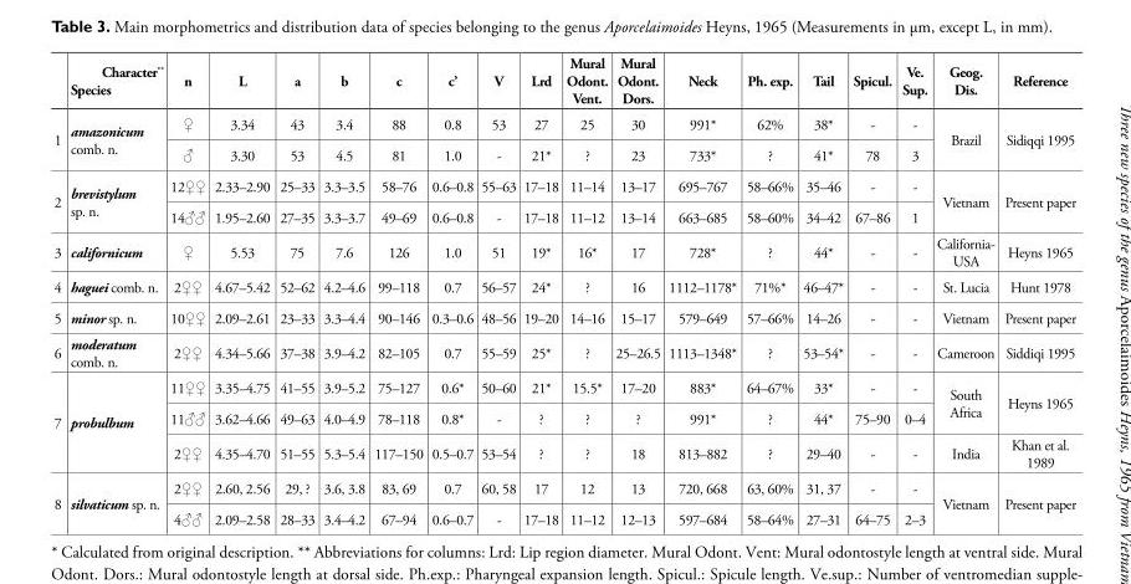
<table><thead><tr><td></td><td>Character** Species</td><td>n</td><td>L</td><td>a</td><td>b</td><td>c</td><td>c’</td><td>V</td><td>Lrd</td><td>Mural Odont. Vent.</td><td>Mural Odont. Dors.</td><td>Neck</td><td>Ph. exp.</td><td>Tail</td><td>Spicul.</td><td>Ve. Sup.</td><td>Geog. Dis.</td><td>Reference</td></tr></thead><tbody><tr><td rowspan="2">1</td><td rowspan="2">amazonicum comb. n.</td><td>♀</td><td>3.34</td><td>43</td><td>3.4</td><td>88</td><td>0.8</td><td>53</td><td>27</td><td>25</td><td>30</td><td>991*</td><td>62%</td><td>38*</td><td>-</td><td>-</td><td rowspan="2">Brazil</td><td rowspan="2">Sidiqqi 1995</td></tr><tr><td>♂</td><td>3.30</td><td>53</td><td>4.5</td><td>81</td><td>1.0</td><td>-</td><td>21*</td><td>?</td><td>23</td><td>733*</td><td>?</td><td>41*</td><td>78</td><td>3</td></tr><tr><td rowspan="2">2</td><td rowspan="2">brevistylum sp. n.</td><td>12♀♀</td><td>2.33–2.90</td><td>25–33</td><td>3.3–3.5</td><td>58–76</td><td>0.6–0.8</td><td>55–63</td><td>17–18</td><td>11–14</td><td>13–17</td><td>695–767</td><td>58–66%</td><td>35–46</td><td>-</td><td>-</td><td rowspan="2">Vietnam</td><td rowspan="2">Present paper</td></tr><tr><td>14♂♂</td><td>1.95–2.60</td><td>27–35</td><td>3.3–3.7</td><td>49–69</td><td>0.6–0.8</td><td>-</td><td>17–18</td><td>11–12</td><td>13–14</td><td>663–685</td><td>58–60%</td><td>34–42</td><td>67–86</td><td>1</td></tr><tr><td>3</td><td>californicum</td><td>♀</td><td>5.53</td><td>75</td><td>7.6</td><td>126</td><td>1.0</td><td>51</td><td>19*</td><td>16*</td><td>17</td><td>728*</td><td>?</td><td>44*</td><td>-</td><td>-</td><td>California- USA</td><td>Heyns 1965</td></tr><tr><td>4</td><td>haguei comb. n.</td><td>2♀♀</td><td>4.67–5.42</td><td>52–62</td><td>4.2–4.6</td><td>99–118</td><td>0.7</td><td>56–57</td><td>24*</td><td>?</td><td>16</td><td>1112–1178*</td><td>71%*</td><td>46–47*</td><td>-</td><td>-</td><td>St. Lucia</td><td>Hunt 1978</td></tr><tr><td>5</td><td>minor sp. n.</td><td>10♀♀</td><td>2.09–2.61</td><td>23–33</td><td>3.3–4.4</td><td>90–146</td><td>0.3–0.6</td><td>48–56</td><td>19–20</td><td>14–16</td><td>15–17</td><td>579–649</td><td>57–66%</td><td>14–26</td><td>-</td><td>-</td><td>Vietnam</td><td>Present paper</td></tr><tr><td>6</td><td>moderatum comb. n.</td><td>2♀♀</td><td>4.34–5.66</td><td>37–38</td><td>3.9–4.2</td><td>82–105</td><td>0.7</td><td>55–59</td><td>25*</td><td>?</td><td>25–26.5</td><td>1113–1348*</td><td>?</td><td>53–54*</td><td>-</td><td>-</td><td>Cameroon</td><td>Siddiqi 1995</td></tr><tr><td rowspan="3">7</td><td rowspan="3">probulbum</td><td>11♀♀</td><td>3.35–4.75</td><td>41–55</td><td>3.9–5.2</td><td>75–127</td><td>0.6*</td><td>50–60</td><td>21*</td><td>15.5*</td><td>17–20</td><td>883*</td><td>64–67%</td><td>33*</td><td>-</td><td>-</td><td rowspan="2">South Africa</td><td rowspan="2">Heyns 1965</td></tr><tr><td>11♂♂</td><td>3.62–4.66</td><td>49–63</td><td>4.0–4.9</td><td>78–118</td><td>0.8*</td><td>-</td><td>?</td><td>?</td><td>?</td><td>991*</td><td>?</td><td>44*</td><td>75–90</td><td>0–4</td></tr><tr><td>2♀♀</td><td>4.35–4.70</td><td>51–55</td><td>5.3–5.4</td><td>117–150</td><td>0.5–0.7</td><td>53–54</td><td>?</td><td>?</td><td>18</td><td>813–882</td><td>?</td><td>29–40</td><td>-</td><td>-</td><td>India</td><td>Khan et al. 1989</td></tr><tr><td rowspan="2">8</td><td rowspan="2">silvaticum sp. n.</td><td>2♀♀</td><td>2.60, 2.56</td><td>29, ?</td><td>3.6, 3.8</td><td>83, 69</td><td>0.7</td><td>60, 58</td><td>17</td><td>12</td><td>13</td><td>720, 668</td><td>63, 60%</td><td>31, 37</td><td>-</td><td>-</td><td rowspan="2">Vietnam</td><td rowspan="2">Present paper</td></tr><tr><td>4♂♂</td><td>2.09–2.58</td><td>28–33</td><td>3.4–4.2</td><td>67–94</td><td>0.6–0.7</td><td>-</td><td>17–18</td><td>11–12</td><td>12–13</td><td>597–684</td><td>58–64%</td><td>27–31</td><td>64–75</td><td>2–3</td></tr></tbody></table>